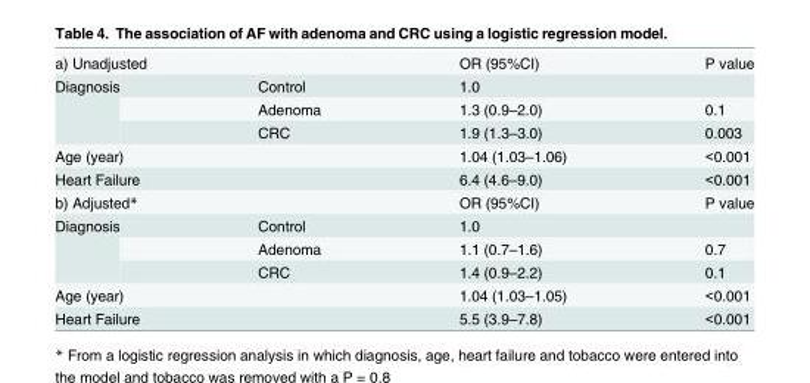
<table><tbody><tr><td colspan="2">a) Unadjusted</td><td>OR (95%CI)</td><td>P value</td></tr><tr><td rowspan="3">Diagnosis</td><td>Control</td><td>1.0</td><td></td></tr><tr><td>Adenoma</td><td>1.3 (0.9–2.0)</td><td>0.1</td></tr><tr><td>CRC</td><td>1.9 (1.3–3.0)</td><td>0.003</td></tr><tr><td colspan="2">Age (year)</td><td>1.04 (1.03–1.06)</td><td>&lt;0.001</td></tr><tr><td colspan="2">Heart Failure</td><td>6.4 (4.6–9.0)</td><td>&lt;0.001</td></tr><tr><td colspan="2">b) Adjusted*</td><td>OR (95%CI)</td><td>P value</td></tr><tr><td rowspan="3">Diagnosis</td><td>Control</td><td>1.0</td><td></td></tr><tr><td>Adenoma</td><td>1.1 (0.7–1.6)</td><td>0.7</td></tr><tr><td>CRC</td><td>1.4 (0.9–2.2)</td><td>0.1</td></tr><tr><td colspan="2">Age (year)</td><td>1.04 (1.03–1.05)</td><td>&lt;0.001</td></tr><tr><td colspan="2">Heart Failure</td><td>5.5 (3.9–7.8)</td><td>&lt;0.001</td></tr></tbody></table>